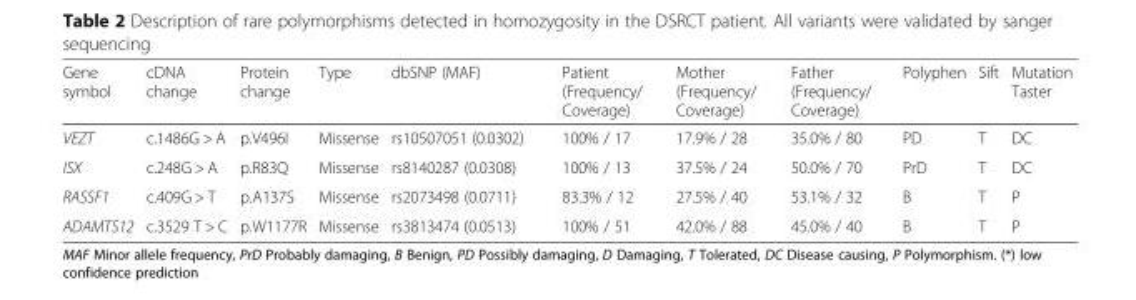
<table><thead><tr><td>Gene symbol</td><td>cDNA change</td><td>Protein change</td><td>Type</td><td>dbSNP (MAF)</td><td>Patient (Frequency/ Coverage)</td><td>Mother (Frequency/ Coverage)</td><td>Father (Frequency/ Coverage)</td><td>Polyphen</td><td>Sift</td><td>Mutation Taster</td></tr></thead><tbody><tr><td>VEZT</td><td>c.1486G &gt; A</td><td>p.V496I</td><td>Missense</td><td>rs10507051 (0.0302)</td><td>100% / 17</td><td>17.9% / 28</td><td>35.0% / 80</td><td>PD</td><td>T</td><td>DC</td></tr><tr><td>ISX</td><td>c.248G &gt; A</td><td>p.R83Q</td><td>Missense</td><td>rs8140287 (0.0308)</td><td>100% / 13</td><td>37.5% / 24</td><td>50.0% / 70</td><td>PrD</td><td>T</td><td>DC</td></tr><tr><td>RASSF1</td><td>c.409G &gt; T</td><td>p.A137S</td><td>Missense</td><td>rs2073498 (0.0711)</td><td>83.3% / 12</td><td>27.5% / 40</td><td>53.1% / 32</td><td>B</td><td>T</td><td>P</td></tr><tr><td>ADAMTS12</td><td>c.3529 T &gt; C</td><td>p.W1177R</td><td>Missense</td><td>rs3813474 (0.0513)</td><td>100% / 51</td><td>42.0% / 88</td><td>45.0% / 40</td><td>B</td><td>T</td><td>P</td></tr></tbody></table>